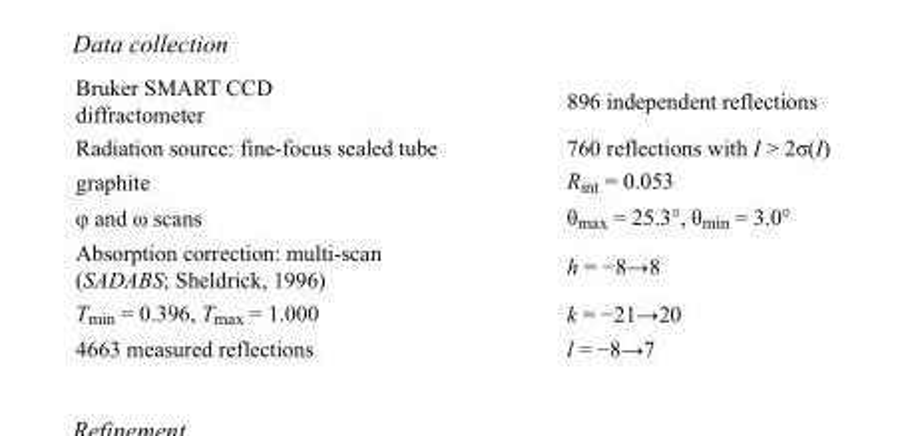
<table><tbody><tr><td>Bruker SMART CCD diffractometer</td><td>896 independent reflections</td></tr><tr><td>Radiation source: fine-focus sealed tube</td><td>760 reflections with I &gt; 2σ(I)</td></tr><tr><td>graphite</td><td>R<sub>int</sub> = 0.053</td></tr><tr><td>φ and ω scans</td><td>θ<sub>max</sub> = 25.3°, θ<sub>min</sub> = 3.0°</td></tr><tr><td>Absorption correction: multi-scan (SADABS; Sheldrick, 1996)</td><td>h = −8→8</td></tr><tr><td>T<sub>min</sub> = 0.396, T<sub>max</sub> = 1.000</td><td>k = −21→20</td></tr><tr><td>4663 measured reflections</td><td>l = −8→7</td></tr></tbody></table>